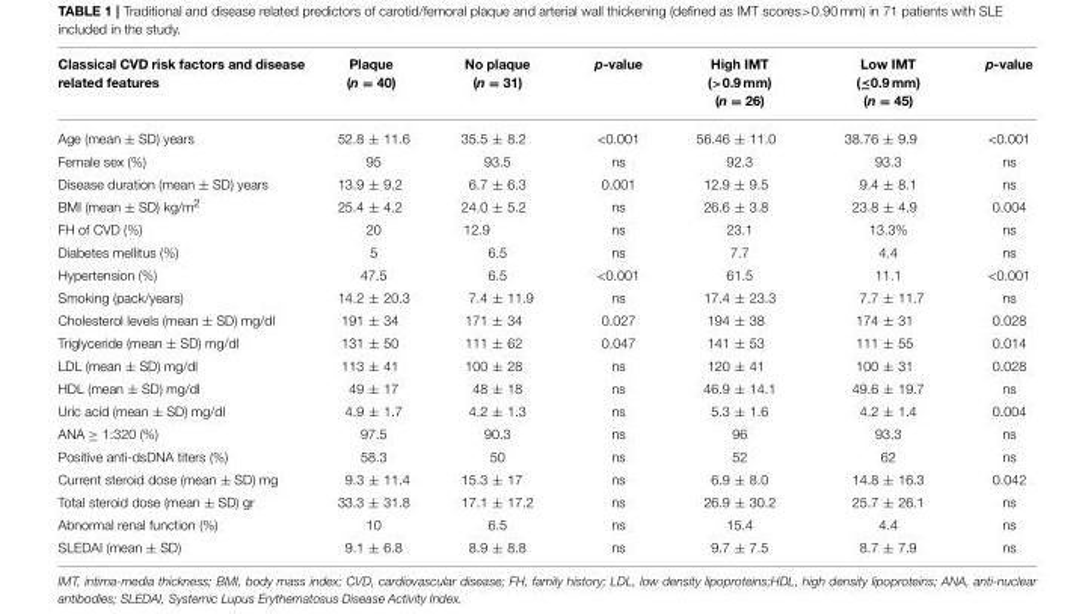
<table><thead><tr><td>Classical CVD risk factors and disease related features</td><td>Plaque (n = 40)</td><td>No plaque (n = 31)</td><td>p-value</td><td>High IMT (&gt;0.9 mm) (n = 26)</td><td>Low IMT (≤0.9 mm) (n = 45)</td><td>p-value</td></tr></thead><tbody><tr><td>Age (mean ± SD) years</td><td>52.8 ± 11.6</td><td>35.5 ± 8.2</td><td>&lt;0.001</td><td>56.46 ± 11.0</td><td>38.76 ± 9.9</td><td>&lt;0.001</td></tr><tr><td>Female sex (%)</td><td>95</td><td>93.5</td><td>ns</td><td>92.3</td><td>93.3</td><td>ns</td></tr><tr><td>Disease duration (mean ± SD) years</td><td>13.9 ± 9.2</td><td>6.7 ± 6.3</td><td>0.001</td><td>12.9 ± 9.5</td><td>9.4 ± 8.1</td><td>ns</td></tr><tr><td>BMI (mean ± SD) kg/m<sup>2</sup></td><td>25.4 ± 4.2</td><td>24.0 ± 5.2</td><td>ns</td><td>26.6 ± 3.8</td><td>23.8 ± 4.9</td><td>0.004</td></tr><tr><td>FH of CVD (%)</td><td>20</td><td>12.9</td><td>ns</td><td>23.1</td><td>13.3%</td><td>ns</td></tr><tr><td>Diabetes mellitus (%)</td><td>5</td><td>6.5</td><td>ns</td><td>7.7</td><td>4.4</td><td>ns</td></tr><tr><td>Hypertension (%)</td><td>47.5</td><td>6.5</td><td>&lt;0.001</td><td>61.5</td><td>11.1</td><td>&lt;0.001</td></tr><tr><td>Smoking (pack/years)</td><td>14.2 ± 20.3</td><td>7.4 ± 11.9</td><td>ns</td><td>17.4 ± 23.3</td><td>7.7 ± 11.7</td><td>ns</td></tr><tr><td>Cholesterol levels (mean ± SD) mg/dl</td><td>191 ± 34</td><td>171 ± 34</td><td>0.027</td><td>194 ± 38</td><td>174 ± 31</td><td>0.028</td></tr><tr><td>Triglyceride (mean ± SD) mg/dl</td><td>131 ± 50</td><td>111 ± 62</td><td>0.047</td><td>141 ± 53</td><td>111 ± 55</td><td>0.014</td></tr><tr><td>LDL (mean ± SD) mg/dl</td><td>113 ± 41</td><td>100 ± 28</td><td>ns</td><td>120 ± 41</td><td>100 ± 31</td><td>0.028</td></tr><tr><td>HDL (mean ± SD) mg/dl</td><td>49 ± 17</td><td>48 ± 18</td><td>ns</td><td>46.9 ± 14.1</td><td>49.6 ± 19.7</td><td>ns</td></tr><tr><td>Uric acid (mean ± SD) mg/dl</td><td>4.9 ± 1.7</td><td>4.2 ± 1.3</td><td>ns</td><td>5.3 ± 1.6</td><td>4.2 ± 1.4</td><td>0.004</td></tr><tr><td>ANA ≥ 1:320 (%)</td><td>97.5</td><td>90.3</td><td>ns</td><td>96</td><td>93.3</td><td>ns</td></tr><tr><td>Positive anti-dsDNA titers (%)</td><td>58.3</td><td>50</td><td>ns</td><td>52</td><td>62</td><td>ns</td></tr><tr><td>Current steroid dose (mean ± SD) mg</td><td>9.3 ± 11.4</td><td>15.3 ± 17</td><td>ns</td><td>6.9 ± 8.0</td><td>14.8 ± 16.3</td><td>0.042</td></tr><tr><td>Total steroid dose (mean ± SD) gr</td><td>33.3 ± 31.8</td><td>17.1 ± 17.2</td><td>ns</td><td>26.9 ± 30.2</td><td>25.7 ± 26.1</td><td>ns</td></tr><tr><td>Abnormal renal function (%)</td><td>10</td><td>6.5</td><td>ns</td><td>15.4</td><td>4.4</td><td>ns</td></tr><tr><td>SLEDAI (mean ± SD)</td><td>9.1 ± 6.8</td><td>8.9 ± 8.8</td><td>ns</td><td>9.7 ± 7.5</td><td>8.7 ± 7.9</td><td>ns</td></tr></tbody></table>